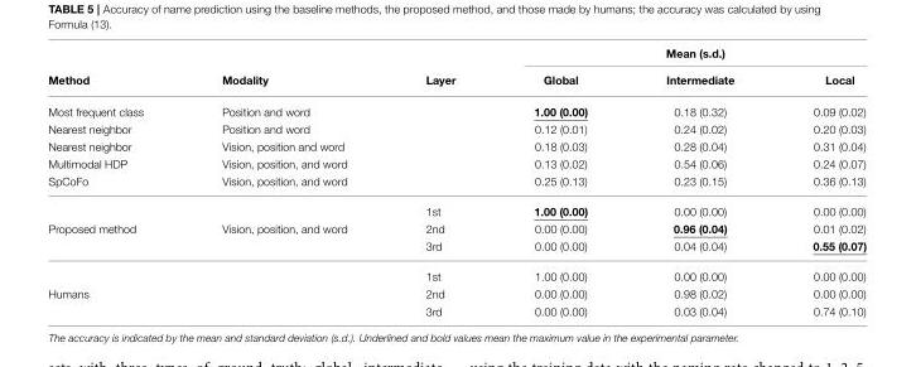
<table><thead><tr><td rowspan="2">Method</td><td rowspan="2">Modality</td><td rowspan="2">Layer</td><td colspan="3">Mean (s.d.)</td></tr><tr><td>Global</td><td>Intermediate</td><td>Local</td></tr></thead><tbody><tr><td>Most frequent class</td><td>Position and word</td><td></td><td>1.00 (0.00)</td><td>0.18 (0.32)</td><td>0.09 (0.02)</td></tr><tr><td>Nearest neighbor</td><td>Position and word</td><td></td><td>0.12 (0.01)</td><td>0.24 (0.02)</td><td>0.20 (0.03)</td></tr><tr><td>Nearest neighbor</td><td>Vision, position and word</td><td></td><td>0.18 (0.03)</td><td>0.28 (0.04)</td><td>0.31 (0.04)</td></tr><tr><td>Multimodal HDP</td><td>Vision, position, and word</td><td></td><td>0.13 (0.02)</td><td>0.54 (0.06)</td><td>0.24 (0.07)</td></tr><tr><td rowspan="2">SpCoFo</td><td>Vision, position, and word</td><td></td><td>0.25 (0.13)</td><td>0.23 (0.15)</td><td>0.36 (0.13)</td></tr><tr><td></td><td>1st</td><td>1.00 (0.00)</td><td>0.00 (0.00)</td><td>0.00 (0.00)</td></tr><tr><td rowspan="3">Proposed method</td><td>Vision, position, and word</td><td>2nd</td><td>0.00 (0.00)</td><td>0.96 (0.04)</td><td>0.01 (0.02)</td></tr><tr><td></td><td>3rd</td><td>0.00 (0.00)</td><td>0.04 (0.04)</td><td>0.55 (0.07)</td></tr><tr><td></td><td>1st</td><td>1.00 (0.00)</td><td>0.00 (0.00)</td><td>0.00 (0.00)</td></tr><tr><td rowspan="2">Humans</td><td></td><td>2nd</td><td>0.00 (0.00)</td><td>0.98 (0.02)</td><td>0.00 (0.00)</td></tr><tr><td></td><td>3rd</td><td>0.00 (0.00)</td><td>0.03 (0.04)</td><td>0.74 (0.10)</td></tr></tbody></table>